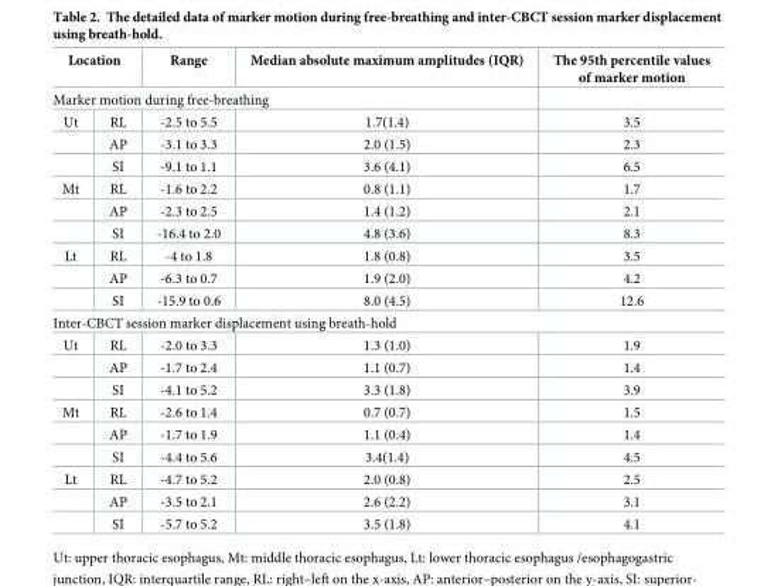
<table><thead><tr><td colspan="2">Location</td><td>Range</td><td>Median absolute maximum amplitudes (IQR)</td><td rowspan="3">The 95th percentile values of marker motion 3.5</td></tr><tr><td colspan="4">Marker motion during free-breathing</td></tr><tr><td>Ut</td><td>RL</td><td>-2.5 to 5.5</td><td>1.7(1.4)</td></tr></thead><tbody><tr><td></td><td>AP</td><td>-3.1 to 3.3</td><td>2.0 (1.5)</td><td>2.3</td></tr><tr><td></td><td>SI</td><td>-9.1 to 1.1</td><td>3.6 (4.1)</td><td>6.5</td></tr><tr><td rowspan="3">Mt</td><td>RL</td><td>-1.6 to 2.2</td><td>0.8 (1.1)</td><td>1.7</td></tr><tr><td>AP</td><td>-2.3 to 2.5</td><td>1.4 (1.2)</td><td>2.1</td></tr><tr><td>SI</td><td>-16.4 to 2.0</td><td>4.8 (3.6)</td><td>8.3</td></tr><tr><td rowspan="3">Lt</td><td>RL</td><td>-4 to 1.8</td><td>1.8 (0.8)</td><td>3.5</td></tr><tr><td>AP</td><td>-6.3 to 0.7</td><td>1.9 (2.0)</td><td>4.2</td></tr><tr><td>SI</td><td>-15.9 to 0.6</td><td>8.0 (4.5)</td><td>12.6</td></tr><tr><td colspan="5">Inter-CBCT session marker displacement using breath-hold</td></tr><tr><td rowspan="3">Ut</td><td>RL</td><td>-2.0 to 3.3</td><td>1.3 (1.0)</td><td>1.9</td></tr><tr><td>AP</td><td>-1.7 to 2.4</td><td>1.1 (0.7)</td><td>1.4</td></tr><tr><td>SI</td><td>-4.1 to 5.2</td><td>3.3 (1.8)</td><td>3.9</td></tr><tr><td rowspan="3">Mt</td><td>RL</td><td>-2.6 to 1.4</td><td>0.7 (0.7)</td><td>1.5</td></tr><tr><td>AP</td><td>-1.7 to 1.9</td><td>1.1 (0.4)</td><td>1.4</td></tr><tr><td>SI</td><td>-4.4 to 5.6</td><td>3.4(1.4)</td><td>4.5</td></tr><tr><td rowspan="3">Lt</td><td>RL</td><td>-4.7 to 5.2</td><td>2.0 (0.8)</td><td>2.5</td></tr><tr><td>AP</td><td>-3.5 to 2.1</td><td>2.6 (2.2)</td><td>3.1</td></tr><tr><td>SI</td><td>-5.7 to 5.2</td><td>3.5 (1.8)</td><td>4.1</td></tr></tbody></table>